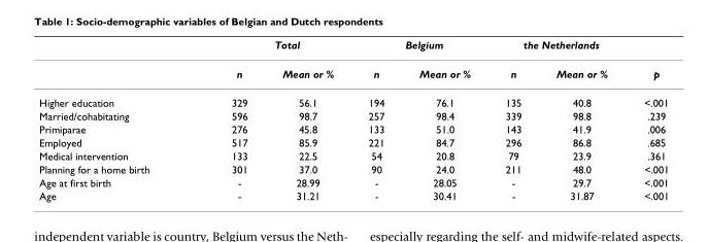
<table><thead><tr><td rowspan="2"></td><td colspan="2">Total</td><td colspan="2">Belgium</td><td colspan="2">the Netherlands</td><td rowspan="2">p</td></tr><tr><td>n</td><td>Mean or %</td><td>n</td><td>Mean or %</td><td>n</td><td>Mean or %</td></tr></thead><tbody><tr><td>Higher education</td><td>329</td><td>56.1</td><td>194</td><td>76.1</td><td>135</td><td>40.8</td><td>&lt;.001</td></tr><tr><td>Married/cohabitating</td><td>596</td><td>98.7</td><td>257</td><td>98.4</td><td>339</td><td>98.8</td><td>.239</td></tr><tr><td>Primiparae</td><td>276</td><td>45.8</td><td>133</td><td>51.0</td><td>143</td><td>41.9</td><td>.006</td></tr><tr><td>Employed</td><td>517</td><td>85.9</td><td>221</td><td>84.7</td><td>296</td><td>86.8</td><td>.685</td></tr><tr><td>Medical intervention</td><td>133</td><td>22.5</td><td>54</td><td>20.8</td><td>79</td><td>23.9</td><td>.361</td></tr><tr><td>Planning for a home birth</td><td>301</td><td>37.0</td><td>90</td><td>24.0</td><td>211</td><td>48.0</td><td>&lt;.001</td></tr><tr><td>Age at first birth</td><td>-</td><td>28.99</td><td>-</td><td>28.05</td><td>-</td><td>29.7</td><td>&lt;.001</td></tr><tr><td>Age</td><td>-</td><td>31.21</td><td>-</td><td>30.41</td><td>-</td><td>31.87</td><td>&lt;.001</td></tr></tbody></table>